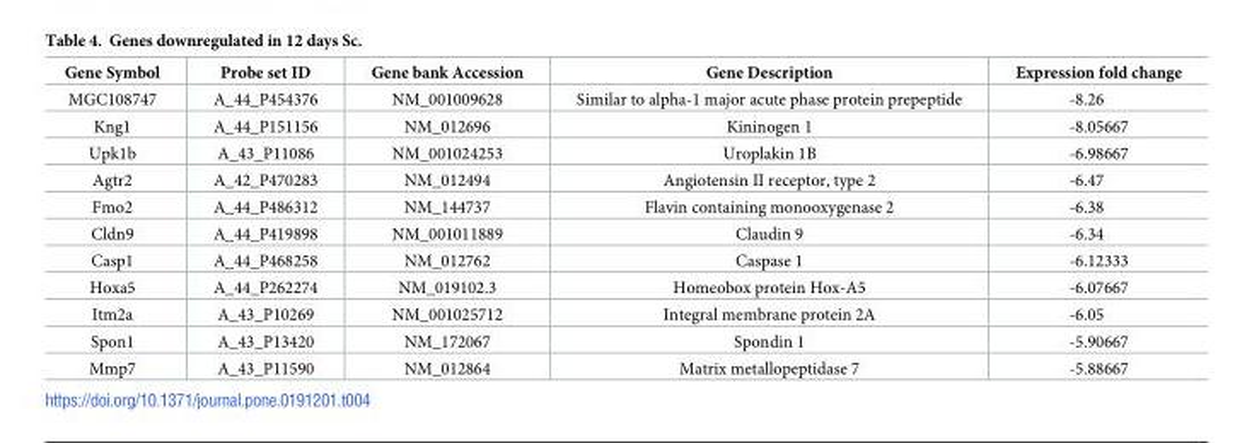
<table><thead><tr><td>Gene Symbol</td><td>Probe set ID</td><td>Gene bank Accession</td><td>Gene Description</td><td>Expression fold change</td></tr></thead><tbody><tr><td>MGC108747</td><td>A_44_P454376</td><td>NM_001009628</td><td>Similar to alpha-1 major acute phase protein prepeptide</td><td>-8.26</td></tr><tr><td>Kng1</td><td>A_44_P151156</td><td>NM_012696</td><td>Kininogen 1</td><td>-8.05667</td></tr><tr><td>Upk1b</td><td>A_43_P11086</td><td>NM_001024253</td><td>Uroplakin 1B</td><td>-6.98667</td></tr><tr><td>Agtr2</td><td>A_42_P470283</td><td>NM_012494</td><td>Angiotensin II receptor, type 2</td><td>-6.47</td></tr><tr><td>Fmo2</td><td>A_44_P486312</td><td>NM_144737</td><td>Flavin containing monooxygenase 2</td><td>-6.38</td></tr><tr><td>Cldn9</td><td>A_44_P419898</td><td>NM_001011889</td><td>Claudin 9</td><td>-6.34</td></tr><tr><td>Casp1</td><td>A_44_P468258</td><td>NM_012762</td><td>Caspase 1</td><td>-6.12333</td></tr><tr><td>Hoxa5</td><td>A_44_P262274</td><td>NM_019102.3</td><td>Homeobox protein Hox-A5</td><td>-6.07667</td></tr><tr><td>Itm2a</td><td>A_43_P10269</td><td>NM_001025712</td><td>Integral membrane protein 2A</td><td>-6.05</td></tr><tr><td>Spon1</td><td>A_43_P13420</td><td>NM_172067</td><td>Spondin 1</td><td>-5.90667</td></tr><tr><td>Mmp7</td><td>A_43_P11590</td><td>NM_012864</td><td>Matrix metallopeptidase 7</td><td>-5.88667</td></tr></tbody></table>